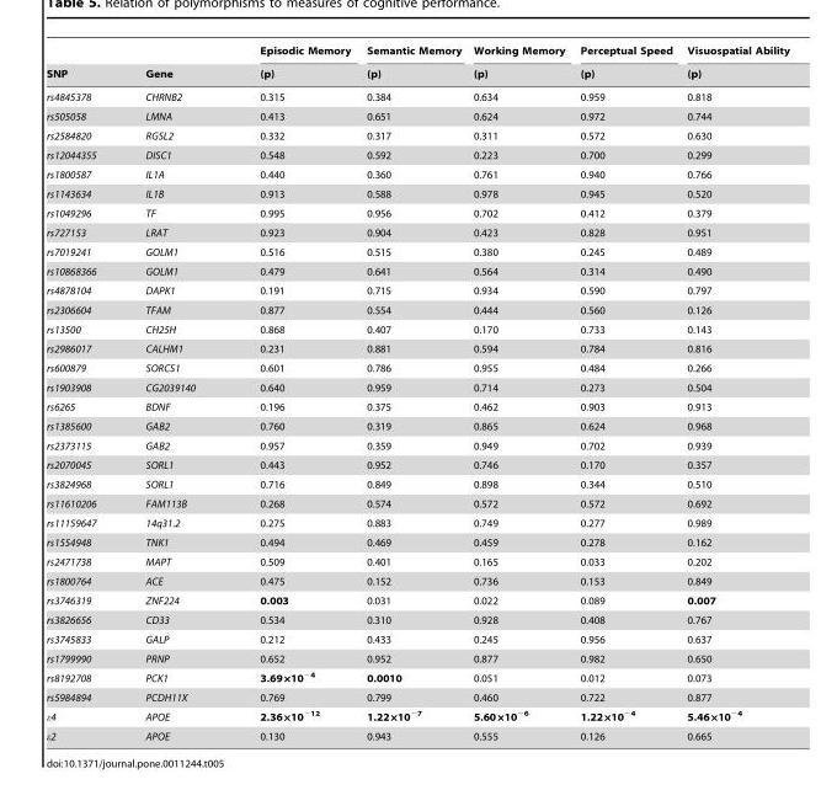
<table><thead><tr><td rowspan="2">SNP</td><td rowspan="2">Gene</td><td rowspan="2">Episodic Memory (p)</td><td rowspan="2">Semantic Memory (p)</td><td rowspan="2">Working Memory (p)</td><td rowspan="2">Perceptual Speed (p)</td><td rowspan="2">Visuospatial Ability (p)</td></tr><tr></tr></thead><tbody><tr><td>rs4845378</td><td>CHRNB2</td><td>0.315</td><td>0.384</td><td>0.634</td><td>0.959</td><td>0.818</td></tr><tr><td>rs505058</td><td>LMNA</td><td>0.413</td><td>0.651</td><td>0.624</td><td>0.972</td><td>0.744</td></tr><tr><td>rs2584820</td><td>RGSL2</td><td>0.332</td><td>0.317</td><td>0.311</td><td>0.572</td><td>0.630</td></tr><tr><td>rs12044355</td><td>DISC1</td><td>0.548</td><td>0.592</td><td>0.223</td><td>0.700</td><td>0.299</td></tr><tr><td>rs1800587</td><td>IL1A</td><td>0.440</td><td>0.360</td><td>0.761</td><td>0.940</td><td>0.766</td></tr><tr><td>rs1143634</td><td>IL1B</td><td>0.913</td><td>0.588</td><td>0.978</td><td>0.945</td><td>0.520</td></tr><tr><td>rs1049296</td><td>TF</td><td>0.995</td><td>0.956</td><td>0.702</td><td>0.412</td><td>0.379</td></tr><tr><td>rs727153</td><td>LRAT</td><td>0.923</td><td>0.904</td><td>0.423</td><td>0.828</td><td>0.951</td></tr><tr><td>rs7019241</td><td>GOLM1</td><td>0.516</td><td>0.515</td><td>0.380</td><td>0.245</td><td>0.489</td></tr><tr><td>rs10868366</td><td>GOLM1</td><td>0.479</td><td>0.641</td><td>0.564</td><td>0.314</td><td>0.490</td></tr><tr><td>rs4878104</td><td>DAPK1</td><td>0.191</td><td>0.715</td><td>0.934</td><td>0.590</td><td>0.797</td></tr><tr><td>rs2306604</td><td>TFAM</td><td>0.877</td><td>0.554</td><td>0.444</td><td>0.560</td><td>0.126</td></tr><tr><td>rs13500</td><td>CH25H</td><td>0.868</td><td>0.407</td><td>0.170</td><td>0.733</td><td>0.143</td></tr><tr><td>rs2986017</td><td>CALHM1</td><td>0.231</td><td>0.881</td><td>0.594</td><td>0.784</td><td>0.816</td></tr><tr><td>rs600879</td><td>SORCS1</td><td>0.601</td><td>0.786</td><td>0.955</td><td>0.484</td><td>0.266</td></tr><tr><td>rs1903908</td><td>CG2039140</td><td>0.640</td><td>0.959</td><td>0.714</td><td>0.273</td><td>0.504</td></tr><tr><td>rs6265</td><td>BDNF</td><td>0.196</td><td>0.375</td><td>0.462</td><td>0.903</td><td>0.913</td></tr><tr><td>rs1385600</td><td>GAB2</td><td>0.760</td><td>0.319</td><td>0.865</td><td>0.624</td><td>0.968</td></tr><tr><td>rs2373115</td><td>GAB2</td><td>0.957</td><td>0.359</td><td>0.949</td><td>0.702</td><td>0.939</td></tr><tr><td>rs2070045</td><td>SORL1</td><td>0.443</td><td>0.952</td><td>0.746</td><td>0.170</td><td>0.357</td></tr><tr><td>rs3824968</td><td>SORL1</td><td>0.716</td><td>0.849</td><td>0.898</td><td>0.344</td><td>0.510</td></tr><tr><td>rs11610206</td><td>FAM113B</td><td>0.268</td><td>0.574</td><td>0.572</td><td>0.572</td><td>0.692</td></tr><tr><td>rs11159647</td><td>14q31.2</td><td>0.275</td><td>0.883</td><td>0.749</td><td>0.277</td><td>0.989</td></tr><tr><td>rs1554948</td><td>TNK1</td><td>0.494</td><td>0.469</td><td>0.459</td><td>0.278</td><td>0.162</td></tr><tr><td>rs2471738</td><td>MAPT</td><td>0.509</td><td>0.401</td><td>0.165</td><td>0.033</td><td>0.202</td></tr><tr><td>rs1800764</td><td>ACE</td><td>0.475</td><td>0.152</td><td>0.736</td><td>0.153</td><td>0.849</td></tr><tr><td>rs3746319</td><td>ZNF224</td><td>0.003</td><td>0.031</td><td>0.022</td><td>0.089</td><td>0.007</td></tr><tr><td>rs3826656</td><td>CD33</td><td>0.534</td><td>0.310</td><td>0.928</td><td>0.408</td><td>0.767</td></tr><tr><td>rs3745833</td><td>GALP</td><td>0.212</td><td>0.433</td><td>0.245</td><td>0.956</td><td>0.637</td></tr><tr><td>rs1799990</td><td>PRNP</td><td>0.652</td><td>0.952</td><td>0.877</td><td>0.982</td><td>0.650</td></tr><tr><td>rs8192708</td><td>PCK1</td><td>3.69×10<sup>−4</sup></td><td>0.0010</td><td>0.051</td><td>0.012</td><td>0.073</td></tr><tr><td>rs5984894</td><td>PCDH11X</td><td>0.769</td><td>0.799</td><td>0.460</td><td>0.722</td><td>0.877</td></tr><tr><td>ε4</td><td>APOE</td><td>2.36×10<sup>−12</sup></td><td>1.22×10<sup>−7</sup></td><td>5.60×10<sup>−6</sup></td><td>1.22×10<sup>−4</sup></td><td>5.46×10<sup>−4</sup></td></tr><tr><td>ε2</td><td>APOE</td><td>0.130</td><td>0.943</td><td>0.555</td><td>0.126</td><td>0.665</td></tr></tbody></table>